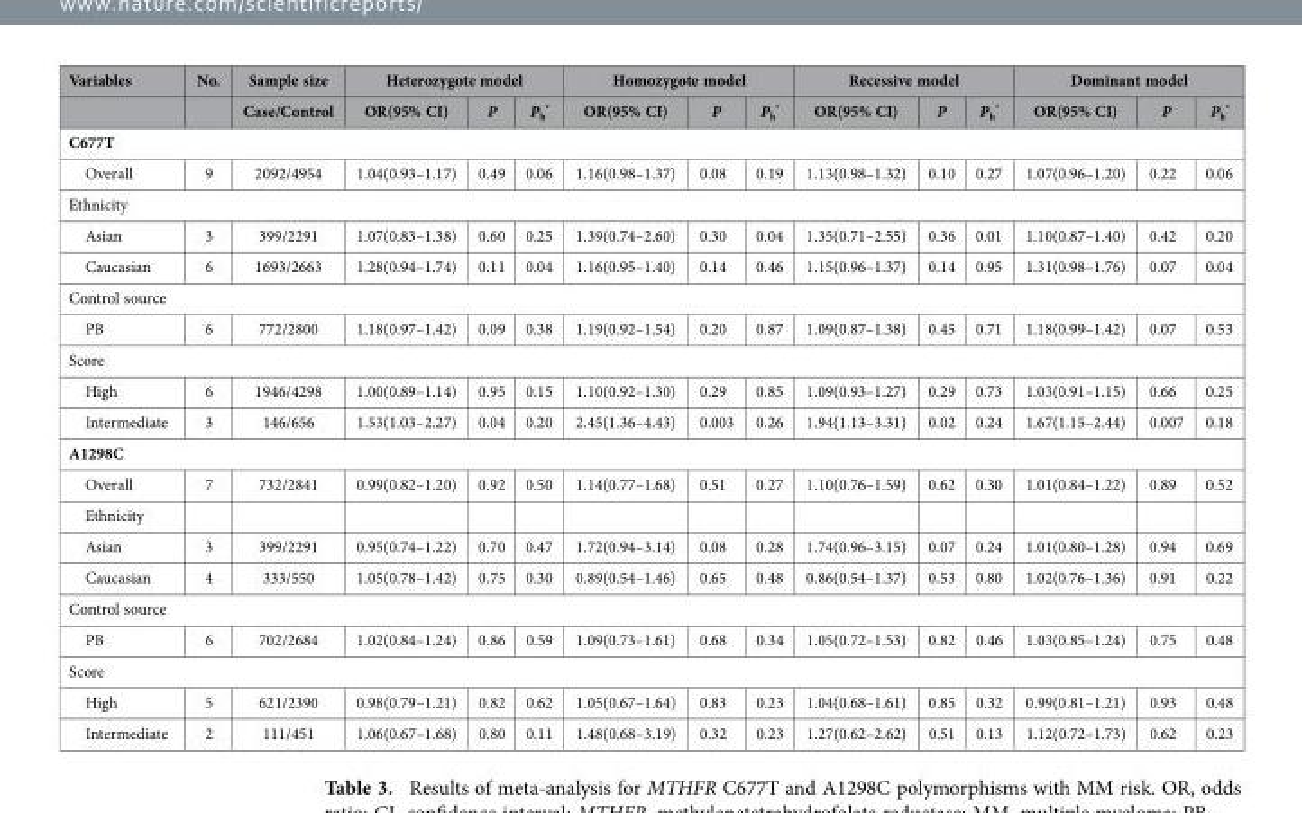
<table><thead><tr><td rowspan="2">Variables</td><td rowspan="2">No.</td><td rowspan="2">Sample size Case/Control</td><td colspan="3">Heterozygote model</td><td colspan="3">Homozygote model</td><td colspan="3">Recessive model</td><td colspan="3">Dominant model</td></tr><tr><td>OR(95% CI)</td><td>P</td><td>P<sub>h</sub> *</td><td>OR(95% CI)</td><td>P</td><td>P<sub>h</sub> *</td><td>OR(95% CI)</td><td>P</td><td>P<sub>h</sub> *</td><td>OR(95% CI)</td><td>P</td><td>P<sub>h</sub> *</td></tr></thead><tbody><tr><td colspan="15">C677T</td></tr><tr><td>Overall</td><td>9</td><td>2092/4954</td><td>1.04(0.93–1.17)</td><td>0.49</td><td>0.06</td><td>1.16(0.98–1.37)</td><td>0.08</td><td>0.19</td><td>1.13(0.98–1.32)</td><td>0.10</td><td>0.27</td><td>1.07(0.96–1.20)</td><td>0.22</td><td>0.06</td></tr><tr><td colspan="15">Ethnicity</td></tr><tr><td>Asian</td><td>3</td><td>399/2291</td><td>1.07(0.83–1.38)</td><td>0.60</td><td>0.25</td><td>1.39(0.74–2.60)</td><td>0.30</td><td>0.04</td><td>1.35(0.71–2.55)</td><td>0.36</td><td>0.01</td><td>1.10(0.87–1.40)</td><td>0.42</td><td>0.20</td></tr><tr><td>Caucasian</td><td>6</td><td>1693/2663</td><td>1.28(0.94–1.74)</td><td>0.11</td><td>0.04</td><td>1.16(0.95–1.40)</td><td>0.14</td><td>0.46</td><td>1.15(0.96–1.37)</td><td>0.14</td><td>0.95</td><td>1.31(0.98–1.76)</td><td>0.07</td><td>0.04</td></tr><tr><td colspan="15">Control source</td></tr><tr><td>PB</td><td>6</td><td>772/2800</td><td>1.18(0.97–1.42)</td><td>0.09</td><td>0.38</td><td>1.19(0.92–1.54)</td><td>0.20</td><td>0.87</td><td>1.09(0.87–1.38)</td><td>0.45</td><td>0.71</td><td>1.18(0.99–1.42)</td><td>0.07</td><td>0.53</td></tr><tr><td colspan="15">Score</td></tr><tr><td>High</td><td>6</td><td>1946/4298</td><td>1.00(0.89–1.14)</td><td>0.95</td><td>0.15</td><td>1.10(0.92–1.30)</td><td>0.29</td><td>0.85</td><td>1.09(0.93–1.27)</td><td>0.29</td><td>0.73</td><td>1.03(0.91–1.15)</td><td>0.66</td><td>0.25</td></tr><tr><td>Intermediate</td><td>3</td><td>146/656</td><td>1.53(1.03–2.27)</td><td>0.04</td><td>0.20</td><td>2.45(1.36–4.43)</td><td>0.003</td><td>0.26</td><td>1.94(1.13–3.31)</td><td>0.02</td><td>0.24</td><td>1.67(1.15–2.44)</td><td>0.007</td><td>0.18</td></tr><tr><td colspan="15">A1298C</td></tr><tr><td>Overall</td><td>7</td><td>732/2841</td><td>0.99(0.82–1.20)</td><td>0.92</td><td>0.50</td><td>1.14(0.77–1.68)</td><td>0.51</td><td>0.27</td><td>1.10(0.76–1.59)</td><td>0.62</td><td>0.30</td><td>1.01(0.84–1.22)</td><td>0.89</td><td>0.52</td></tr><tr><td colspan="15">Ethnicity</td></tr><tr><td>Asian</td><td>3</td><td>399/2291</td><td>0.95(0.74–1.22)</td><td>0.70</td><td>0.47</td><td>1.72(0.94–3.14)</td><td>0.08</td><td>0.28</td><td>1.74(0.96–3.15)</td><td>0.07</td><td>0.24</td><td>1.01(0.80–1.28)</td><td>0.94</td><td>0.69</td></tr><tr><td>Caucasian</td><td>4</td><td>333/550</td><td>1.05(0.78–1.42)</td><td>0.75</td><td>0.30</td><td>0.89(0.54–1.46)</td><td>0.65</td><td>0.48</td><td>0.86(0.54–1.37)</td><td>0.53</td><td>0.80</td><td>1.02(0.76–1.36)</td><td>0.91</td><td>0.22</td></tr><tr><td colspan="15">Control source</td></tr><tr><td>PB</td><td>6</td><td>702/2684</td><td>1.02(0.84–1.24)</td><td>0.86</td><td>0.59</td><td>1.09(0.73–1.61)</td><td>0.68</td><td>0.34</td><td>1.05(0.72–1.53)</td><td>0.82</td><td>0.46</td><td>1.03(0.85–1.24)</td><td>0.75</td><td>0.48</td></tr><tr><td colspan="15">Score</td></tr><tr><td>High</td><td>5</td><td>621/2390</td><td>0.98(0.79–1.21)</td><td>0.82</td><td>0.62</td><td>1.05(0.67–1.64)</td><td>0.83</td><td>0.23</td><td>1.04(0.68–1.61)</td><td>0.85</td><td>0.32</td><td>0.99(0.81–1.21)</td><td>0.93</td><td>0.48</td></tr><tr><td>Intermediate</td><td>2</td><td>111/451</td><td>1.06(0.67–1.68)</td><td>0.80</td><td>0.11</td><td>1.48(0.68–3.19)</td><td>0.32</td><td>0.23</td><td>1.27(0.62–2.62)</td><td>0.51</td><td>0.13</td><td>1.12(0.72–1.73)</td><td>0.62</td><td>0.23</td></tr></tbody></table>